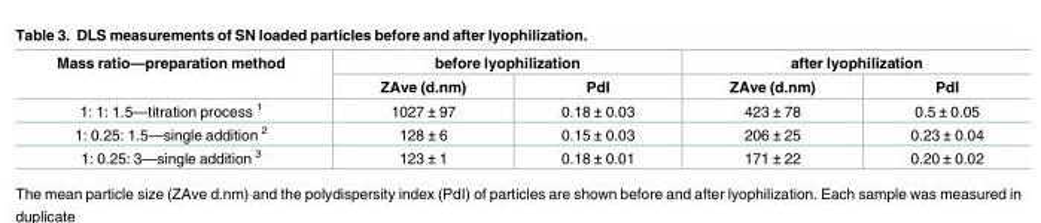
<table><thead><tr><td rowspan="2">Mass ratio—preparation method</td><td colspan="2">before lyophilization</td><td colspan="2">after lyophilization</td></tr><tr><td>ZAve (d.nm)</td><td>PdI</td><td>ZAve (d.nm)</td><td>PdI</td></tr></thead><tbody><tr><td>1: 1: 1.5—titration process <sup>1</sup></td><td>1027 ± 97</td><td>0.18 ± 0.03</td><td>423 ± 78</td><td>0.5 ± 0.05</td></tr><tr><td>1: 0.25: 1.5—single addition <sup>2</sup></td><td>128 ± 6</td><td>0.15 ± 0.03</td><td>206 ± 25</td><td>0.23 ± 0.04</td></tr><tr><td>1: 0.25: 3—single addition <sup>3</sup></td><td>123 ± 1</td><td>0.18 ± 0.01</td><td>171 ± 22</td><td>0.20 ± 0.02</td></tr></tbody></table>